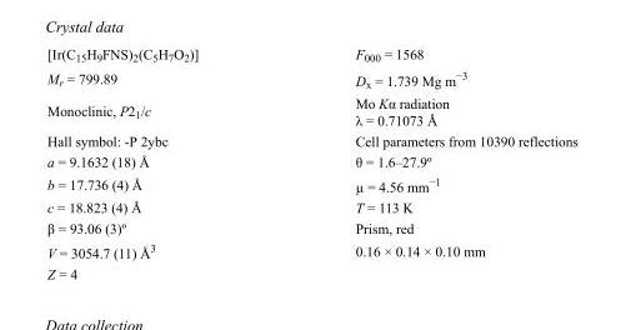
<table><tbody><tr><td>[Ir(C<sub>15</sub>H<sub>9</sub>FNS)<sub>2</sub>(C<sub>5</sub>H<sub>7</sub>O<sub>2</sub>)]</td><td>F000 = 1568</td></tr><tr><td>M<sub>r</sub> = 799.89</td><td>D<sub>x</sub> = 1.739 Mg m<sup>−3</sup></td></tr><tr><td>Monoclinic, P2<sub>1</sub>/c</td><td>Mo Kα radiation λ = 0.71073 Å</td></tr><tr><td>Hall symbol: -P 2ybc</td><td>Cell parameters from 10390 reflections</td></tr><tr><td>a = 9.1632 (18) Å</td><td>θ = 1.6–27.9º</td></tr><tr><td>b = 17.736 (4) Å</td><td>µ = 4.56 mm<sup>−1</sup></td></tr><tr><td>c = 18.823 (4) Å</td><td>T = 113 K</td></tr><tr><td>β = 93.06 (3)º</td><td>Prism, red</td></tr><tr><td>V = 3054.7 (11) Å<sup>3</sup></td><td>0.16 × 0.14 × 0.10 mm</td></tr><tr><td>Z = 4</td><td></td></tr></tbody></table>